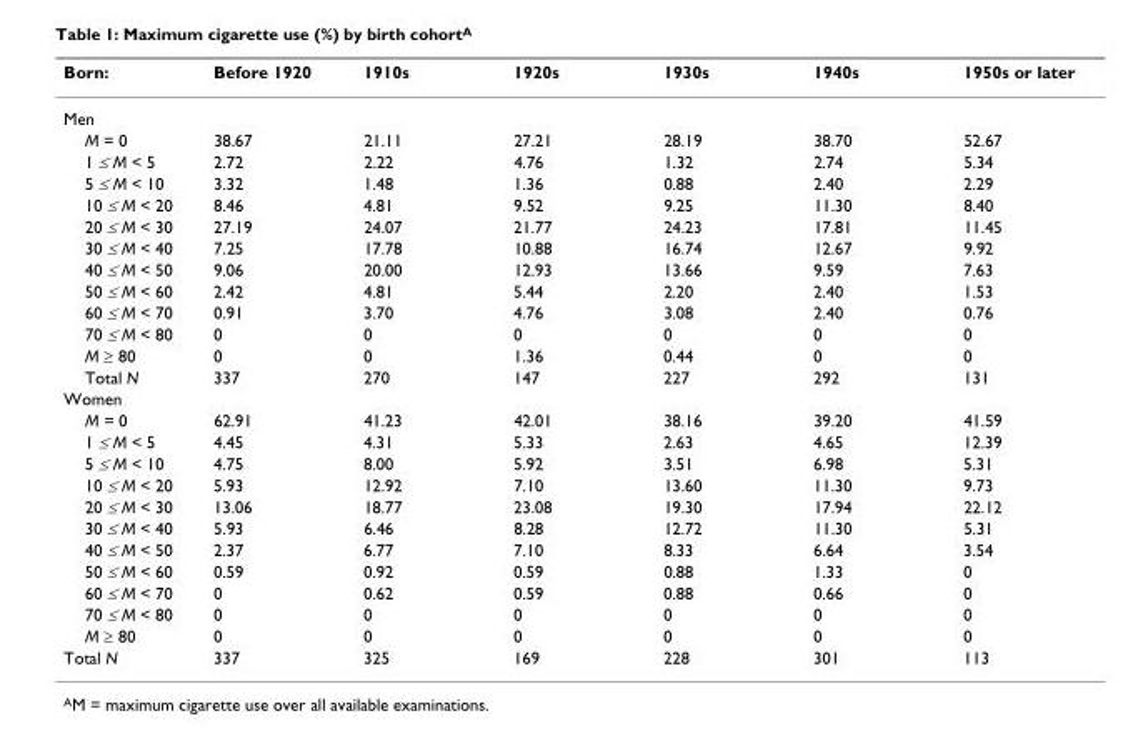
<table><thead><tr><td>Born:</td><td>Before 1920</td><td>1910s</td><td>1920s</td><td>1930s</td><td>1940s</td><td>1950s or later</td></tr></thead><tbody><tr><td colspan="7">Men</td></tr><tr><td>M = 0</td><td>38.67</td><td>21.11</td><td>27.21</td><td>28.19</td><td>38.70</td><td>52.67</td></tr><tr><td>1 ≤ M &lt; 5</td><td>2.72</td><td>2.22</td><td>4.76</td><td>1.32</td><td>2.74</td><td>5.34</td></tr><tr><td>5 ≤ M &lt; 10</td><td>3.32</td><td>1.48</td><td>1.36</td><td>0.88</td><td>2.40</td><td>2.29</td></tr><tr><td>10 ≤ M &lt; 20</td><td>8.46</td><td>4.81</td><td>9.52</td><td>9.25</td><td>11.30</td><td>8.40</td></tr><tr><td>20 ≤ M &lt; 30</td><td>27.19</td><td>24.07</td><td>21.77</td><td>24.23</td><td>17.81</td><td>11.45</td></tr><tr><td>30 ≤ M &lt; 40</td><td>7.25</td><td>17.78</td><td>10.88</td><td>16.74</td><td>12.67</td><td>9.92</td></tr><tr><td>40 ≤ M &lt; 50</td><td>9.06</td><td>20.00</td><td>12.93</td><td>13.66</td><td>9.59</td><td>7.63</td></tr><tr><td>50 ≤ M &lt; 60</td><td>2.42</td><td>4.81</td><td>5.44</td><td>2.20</td><td>2.40</td><td>1.53</td></tr><tr><td>60 ≤ M &lt; 70</td><td>0.91</td><td>3.70</td><td>4.76</td><td>3.08</td><td>2.40</td><td>0.76</td></tr><tr><td>70 ≤ M &lt; 80</td><td>0</td><td>0</td><td>0</td><td>0</td><td>0</td><td>0</td></tr><tr><td>M ≥ 80</td><td>0</td><td>0</td><td>1.36</td><td>0.44</td><td>0</td><td>0</td></tr><tr><td>Total N</td><td>337</td><td>270</td><td>147</td><td>227</td><td>292</td><td>131</td></tr><tr><td colspan="7">Women</td></tr><tr><td>M = 0</td><td>62.91</td><td>41.23</td><td>42.01</td><td>38.16</td><td>39.20</td><td>41.59</td></tr><tr><td>1 ≤ M &lt; 5</td><td>4.45</td><td>4.31</td><td>5.33</td><td>2.63</td><td>4.65</td><td>12.39</td></tr><tr><td>5 ≤ M &lt; 10</td><td>4.75</td><td>8.00</td><td>5.92</td><td>3.51</td><td>6.98</td><td>5.31</td></tr><tr><td>10 ≤ M &lt; 20</td><td>5.93</td><td>12.92</td><td>7.10</td><td>13.60</td><td>11.30</td><td>9.73</td></tr><tr><td>20 ≤ M &lt; 30</td><td>13.06</td><td>18.77</td><td>23.08</td><td>19.30</td><td>17.94</td><td>22.12</td></tr><tr><td>30 ≤ M &lt; 40</td><td>5.93</td><td>6.46</td><td>8.28</td><td>12.72</td><td>11.30</td><td>5.31</td></tr><tr><td>40 ≤ M &lt; 50</td><td>2.37</td><td>6.77</td><td>7.10</td><td>8.33</td><td>6.64</td><td>3.54</td></tr><tr><td>50 ≤ M &lt; 60</td><td>0.59</td><td>0.92</td><td>0.59</td><td>0.88</td><td>1.33</td><td>0</td></tr><tr><td>60 ≤ M &lt; 70</td><td>0</td><td>0.62</td><td>0.59</td><td>0.88</td><td>0.66</td><td>0</td></tr><tr><td>70 ≤ M &lt; 80</td><td>0</td><td>0</td><td>0</td><td>0</td><td>0</td><td>0</td></tr><tr><td>M ≥ 80</td><td>0</td><td>0</td><td>0</td><td>0</td><td>0</td><td>0</td></tr><tr><td>Total N</td><td>337</td><td>325</td><td>169</td><td>228</td><td>301</td><td>113</td></tr></tbody></table>